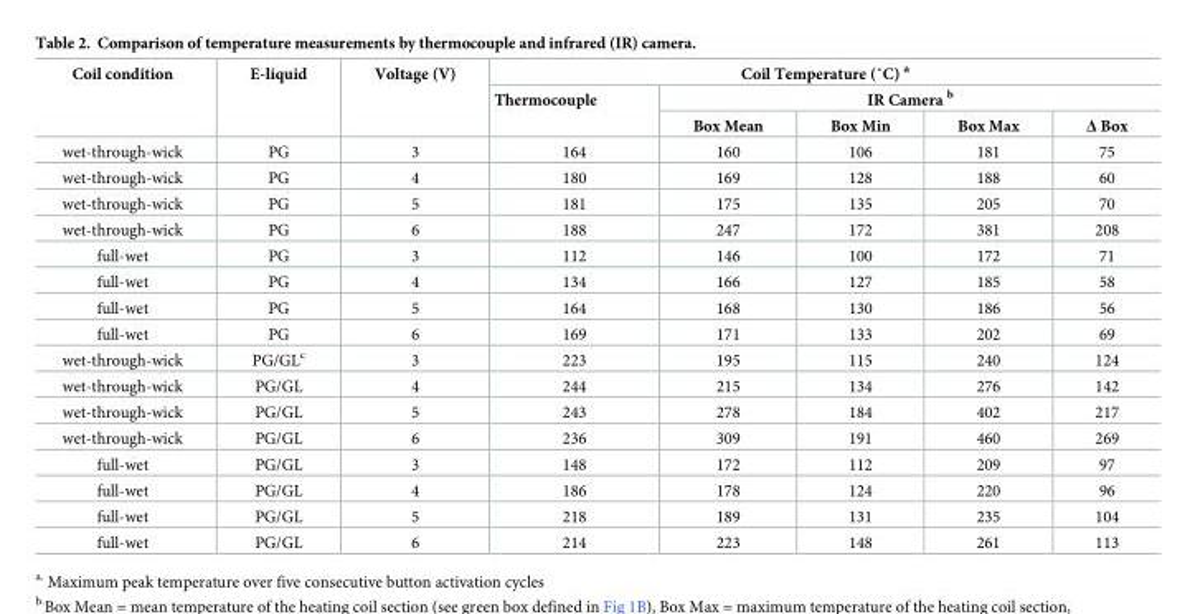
<table><thead><tr><td rowspan="3">Coil condition</td><td rowspan="3">E-liquid</td><td rowspan="3">Voltage (V)</td><td colspan="5">Coil Temperature (˚C) a</td></tr><tr><td rowspan="2">Thermocouple</td><td colspan="4">IR Camera <sup>b</sup></td></tr><tr><td>Box Mean</td><td>Box Min</td><td>Box Max</td><td>Δ Box</td></tr></thead><tbody><tr><td>wet-through-wick</td><td>PG</td><td>3</td><td>164</td><td>160</td><td>106</td><td>181</td><td>75</td></tr><tr><td>wet-through-wick</td><td>PG</td><td>4</td><td>180</td><td>169</td><td>128</td><td>188</td><td>60</td></tr><tr><td>wet-through-wick</td><td>PG</td><td>5</td><td>181</td><td>175</td><td>135</td><td>205</td><td>70</td></tr><tr><td>wet-through-wick</td><td>PG</td><td>6</td><td>188</td><td>247</td><td>172</td><td>381</td><td>208</td></tr><tr><td>full-wet</td><td>PG</td><td>3</td><td>112</td><td>146</td><td>100</td><td>172</td><td>71</td></tr><tr><td>full-wet</td><td>PG</td><td>4</td><td>134</td><td>166</td><td>127</td><td>185</td><td>58</td></tr><tr><td>full-wet</td><td>PG</td><td>5</td><td>164</td><td>168</td><td>130</td><td>186</td><td>56</td></tr><tr><td>full-wet</td><td>PG</td><td>6</td><td>169</td><td>171</td><td>133</td><td>202</td><td>69</td></tr><tr><td>wet-through-wick</td><td>PG/GL<sup>c</sup></td><td>3</td><td>223</td><td>195</td><td>115</td><td>240</td><td>124</td></tr><tr><td>wet-through-wick</td><td>PG/GL</td><td>4</td><td>244</td><td>215</td><td>134</td><td>276</td><td>142</td></tr><tr><td>wet-through-wick</td><td>PG/GL</td><td>5</td><td>243</td><td>278</td><td>184</td><td>402</td><td>217</td></tr><tr><td>wet-through-wick</td><td>PG/GL</td><td>6</td><td>236</td><td>309</td><td>191</td><td>460</td><td>269</td></tr><tr><td>full-wet</td><td>PG/GL</td><td>3</td><td>148</td><td>172</td><td>112</td><td>209</td><td>97</td></tr><tr><td>full-wet</td><td>PG/GL</td><td>4</td><td>186</td><td>178</td><td>124</td><td>220</td><td>96</td></tr><tr><td>full-wet</td><td>PG/GL</td><td>5</td><td>218</td><td>189</td><td>131</td><td>235</td><td>104</td></tr><tr><td>full-wet</td><td>PG/GL</td><td>6</td><td>214</td><td>223</td><td>148</td><td>261</td><td>113</td></tr></tbody></table>